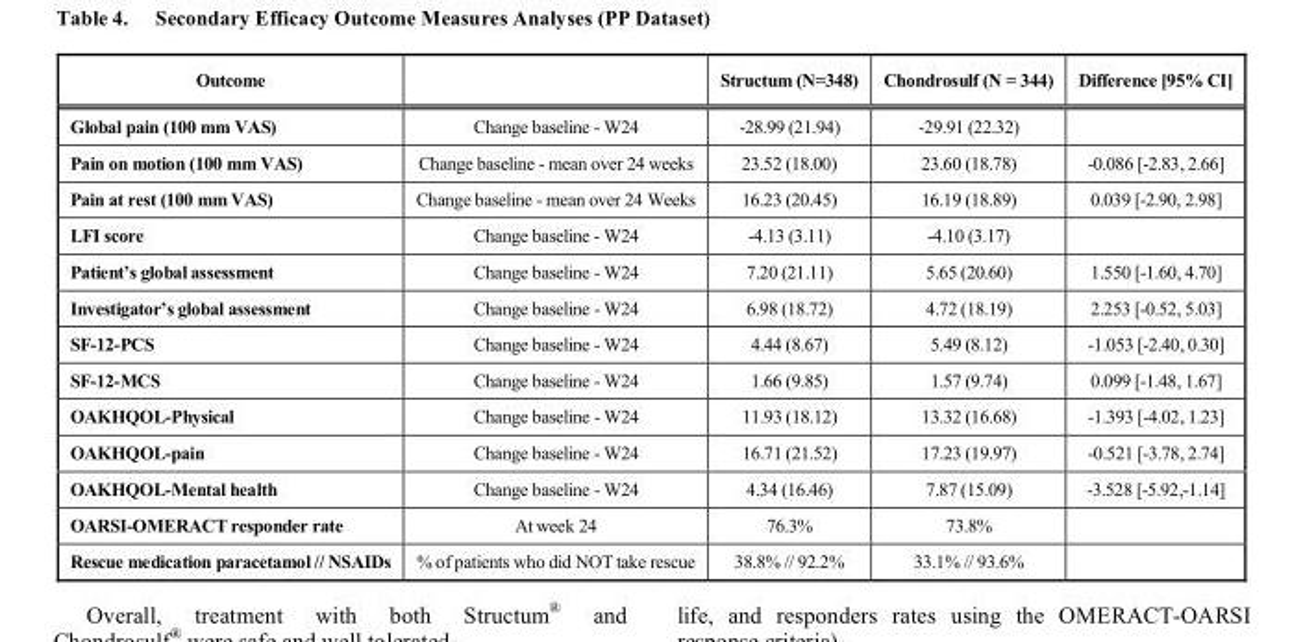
<table><thead><tr><td>Outcome</td><td></td><td>Structum (N=348)</td><td>Chondrosulf (N = 344)</td><td>Difference [95% CI]</td></tr></thead><tbody><tr><td>Global pain (100 mm VAS)</td><td>Change baseline - W24</td><td>-28.99 (21.94)</td><td>-29.91 (22.32)</td><td></td></tr><tr><td>Pain on motion (100 mm VAS)</td><td>Change baseline - mean over 24 weeks</td><td>23.52 (18.00)</td><td>23.60 (18.78)</td><td>-0.086 [-2.83, 2.66]</td></tr><tr><td>Pain at rest (100 mm VAS)</td><td>Change baseline - mean over 24 Weeks</td><td>16.23 (20.45)</td><td>16.19 (18.89)</td><td>0.039 [-2.90, 2.98]</td></tr><tr><td>LFI score</td><td>Change baseline - W24</td><td>-4.13 (3.11)</td><td>-4.10 (3.17)</td><td></td></tr><tr><td>Patient’s global assessment</td><td>Change baseline - W24</td><td>7.20 (21.11)</td><td>5.65 (20.60)</td><td>1.550 [-1.60, 4.70]</td></tr><tr><td>Investigator’s global assessment</td><td>Change baseline - W24</td><td>6.98 (18.72)</td><td>4.72 (18.19)</td><td>2.253 [-0.52, 5.03]</td></tr><tr><td>SF-12-PCS</td><td>Change baseline - W24</td><td>4.44 (8.67)</td><td>5.49 (8.12)</td><td>-1.053 [-2.40, 0.30]</td></tr><tr><td>SF-12-MCS</td><td>Change baseline - W24</td><td>1.66 (9.85)</td><td>1.57 (9.74)</td><td>0.099 [-1.48, 1.67]</td></tr><tr><td>OAKHQOL-Physical</td><td>Change baseline - W24</td><td>11.93 (18.12)</td><td>13.32 (16.68)</td><td>-1.393 [-4.02, 1.23]</td></tr><tr><td>OAKHQOL-pain</td><td>Change baseline - W24</td><td>16.71 (21.52)</td><td>17.23 (19.97)</td><td>-0.521 [-3.78, 2.74]</td></tr><tr><td>OAKHQOL-Mental health</td><td>Change baseline - W24</td><td>4.34 (16.46)</td><td>7.87 (15.09)</td><td>-3.528 [-5.92,-1.14]</td></tr><tr><td>OARSI-OMERACT responder rate</td><td>At week 24</td><td>76.3%</td><td>73.8%</td><td></td></tr><tr><td>Rescue medication paracetamol // NSAIDs</td><td>% of patients who did NOT take rescue</td><td>38.8% // 92.2%</td><td>33.1% // 93.6%</td><td></td></tr></tbody></table>